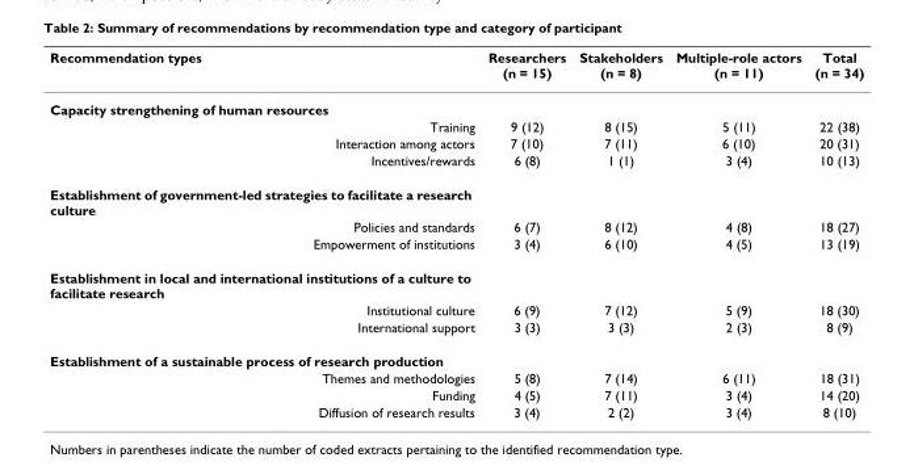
<table><thead><tr><td>Recommendation types</td><td>Researchers (n = 15)</td><td>Stakeholders (n = 8)</td><td>Multiple-role actors (n = 11)</td><td>Total (n = 34)</td></tr></thead><tbody><tr><td colspan="5">Capacity strengthening of human resources</td></tr><tr><td>Training</td><td>9 (12)</td><td>8 (15)</td><td>5 (11)</td><td>22 (38)</td></tr><tr><td>Interaction among actors</td><td>7 (10)</td><td>7 (11)</td><td>6 (10)</td><td>20 (31)</td></tr><tr><td>Incentives/rewards</td><td>6 (8)</td><td>1 (1)</td><td>3 (4)</td><td>10 (13)</td></tr><tr><td colspan="5">Establishment of government-led strategies to facilitate a research culture</td></tr><tr><td>Policies and standards</td><td>6 (7)</td><td>8 (12)</td><td>4 (8)</td><td>18 (27)</td></tr><tr><td>Empowerment of institutions</td><td>3 (4)</td><td>6 (10)</td><td>4 (5)</td><td>13 (19)</td></tr><tr><td colspan="5">Establishment in local and international institutions of a culture to facilitate research</td></tr><tr><td>Institutional culture</td><td>6 (9)</td><td>7 (12)</td><td>5 (9)</td><td>18 (30)</td></tr><tr><td>International support</td><td>3 (3)</td><td>3 (3)</td><td>2 (3)</td><td>8 (9)</td></tr><tr><td colspan="5">Establishment of a sustainable process of research production</td></tr><tr><td>Themes and methodologies</td><td>5 (8)</td><td>7 (14)</td><td>6 (11)</td><td>18 (31)</td></tr><tr><td>Funding</td><td>4 (5)</td><td>7 (11)</td><td>3 (4)</td><td>14 (20)</td></tr><tr><td>Diffusion of research results</td><td>3 (4)</td><td>2 (2)</td><td>3 (4)</td><td>8 (10)</td></tr></tbody></table>